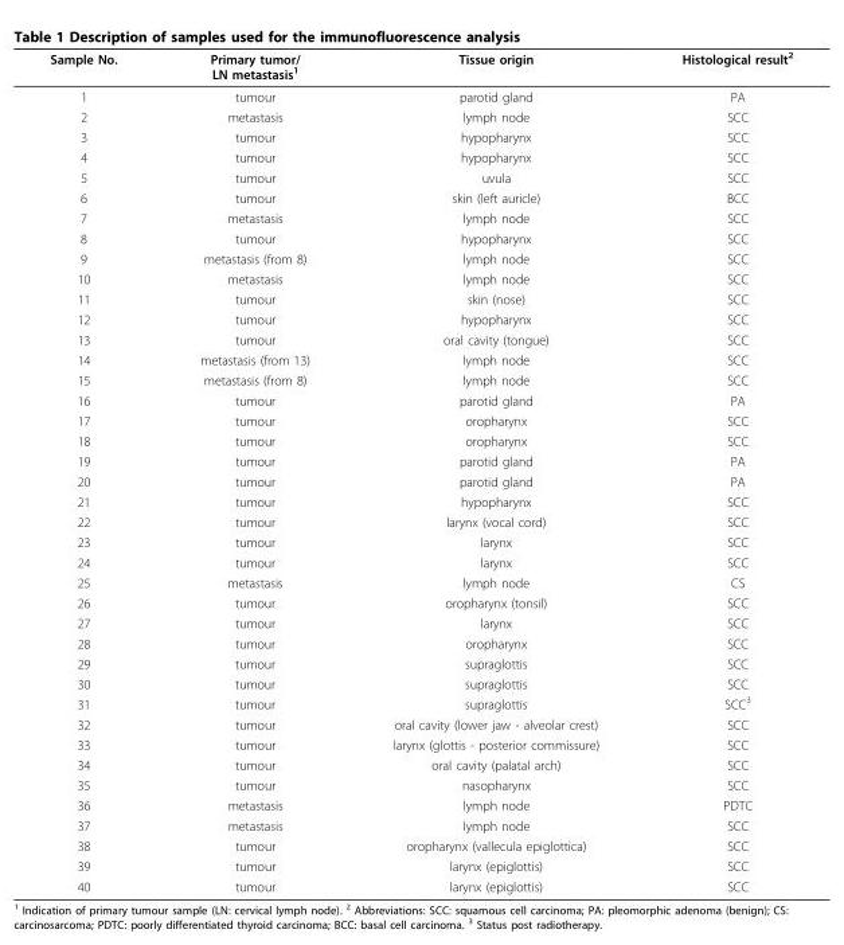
<table><thead><tr><td>Sample No.</td><td>Primary tumor/ LN metastasis<sup>1</sup></td><td>Tissue origin</td><td>Histological result<sup>2</sup></td></tr></thead><tbody><tr><td>1</td><td>tumour</td><td>parotid gland</td><td>PA</td></tr><tr><td>2</td><td>metastasis</td><td>lymph node</td><td>SCC</td></tr><tr><td>3</td><td>tumour</td><td>hypopharynx</td><td>SCC</td></tr><tr><td>4</td><td>tumour</td><td>hypopharynx</td><td>SCC</td></tr><tr><td>5</td><td>tumour</td><td>uvula</td><td>SCC</td></tr><tr><td>6</td><td>tumour</td><td>skin (left auricle)</td><td>BCC</td></tr><tr><td>7</td><td>metastasis</td><td>lymph node</td><td>SCC</td></tr><tr><td>8</td><td>tumour</td><td>hypopharynx</td><td>SCC</td></tr><tr><td>9</td><td>metastasis (from 8)</td><td>lymph node</td><td>SCC</td></tr><tr><td>10</td><td>metastasis</td><td>lymph node</td><td>SCC</td></tr><tr><td>11</td><td>tumour</td><td>skin (nose)</td><td>SCC</td></tr><tr><td>12</td><td>tumour</td><td>hypopharynx</td><td>SCC</td></tr><tr><td>13</td><td>tumour</td><td>oral cavity (tongue)</td><td>SCC</td></tr><tr><td>14</td><td>metastasis (from 13)</td><td>lymph node</td><td>SCC</td></tr><tr><td>15</td><td>metastasis (from 8)</td><td>lymph node</td><td>SCC</td></tr><tr><td>16</td><td>tumour</td><td>parotid gland</td><td>PA</td></tr><tr><td>17</td><td>tumour</td><td>oropharynx</td><td>SCC</td></tr><tr><td>18</td><td>tumour</td><td>oropharynx</td><td>SCC</td></tr><tr><td>19</td><td>tumour</td><td>parotid gland</td><td>PA</td></tr><tr><td>20</td><td>tumour</td><td>parotid gland</td><td>PA</td></tr><tr><td>21</td><td>tumour</td><td>hypopharynx</td><td>SCC</td></tr><tr><td>22</td><td>tumour</td><td>larynx (vocal cord)</td><td>SCC</td></tr><tr><td>23</td><td>tumour</td><td>larynx</td><td>SCC</td></tr><tr><td>24</td><td>tumour</td><td>larynx</td><td>SCC</td></tr><tr><td>25</td><td>metastasis</td><td>lymph node</td><td>CS</td></tr><tr><td>26</td><td>tumour</td><td>oropharynx (tonsil)</td><td>SCC</td></tr><tr><td>27</td><td>tumour</td><td>larynx</td><td>SCC</td></tr><tr><td>28</td><td>tumour</td><td>oropharynx</td><td>SCC</td></tr><tr><td>29</td><td>tumour</td><td>supraglottis</td><td>SCC</td></tr><tr><td>30</td><td>tumour</td><td>supraglottis</td><td>SCC</td></tr><tr><td>31</td><td>tumour</td><td>supraglottis</td><td>SCC<sup>3</sup></td></tr><tr><td>32</td><td>tumour</td><td>oral cavity (lower jaw - alveolar crest)</td><td>SCC</td></tr><tr><td>33</td><td>tumour</td><td>larynx (glottis - posterior commissure)</td><td>SCC</td></tr><tr><td>34</td><td>tumour</td><td>oral cavity (palatal arch)</td><td>SCC</td></tr><tr><td>35</td><td>tumour</td><td>nasopharynx</td><td>SCC</td></tr><tr><td>36</td><td>metastasis</td><td>lymph node</td><td>PDTC</td></tr><tr><td>37</td><td>metastasis</td><td>lymph node</td><td>SCC</td></tr><tr><td>38</td><td>tumour</td><td>oropharynx (vallecula epiglottica)</td><td>SCC</td></tr><tr><td>39</td><td>tumour</td><td>larynx (epiglottis)</td><td>SCC</td></tr><tr><td>40</td><td>tumour</td><td>larynx (epiglottis)</td><td>SCC</td></tr></tbody></table>